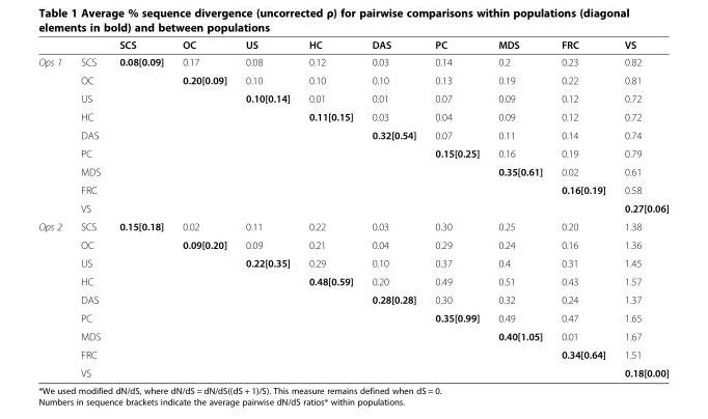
<table><thead><tr><td></td><td></td><td>SCS</td><td>OC</td><td>US</td><td>HC</td><td>DAS</td><td>PC</td><td>MDS</td><td>FRC</td><td>VS</td></tr></thead><tbody><tr><td rowspan="9">Ops 1</td><td>SCS</td><td>0.08[0.09]</td><td>0.17</td><td>0.08</td><td>0.12</td><td>0.03</td><td>0.14</td><td>0.2</td><td>0.23</td><td>0.82</td></tr><tr><td>OC</td><td></td><td>0.20[0.09]</td><td>0.10</td><td>0.10</td><td>0.10</td><td>0.13</td><td>0.19</td><td>0.22</td><td>0.81</td></tr><tr><td>US</td><td></td><td></td><td>0.10[0.14]</td><td>0.01</td><td>0.01</td><td>0.07</td><td>0.09</td><td>0.12</td><td>0.72</td></tr><tr><td>HC</td><td></td><td></td><td></td><td>0.11[0.15]</td><td>0.03</td><td>0.04</td><td>0.09</td><td>0.12</td><td>0.72</td></tr><tr><td>DAS</td><td></td><td></td><td></td><td></td><td>0.32[0.54]</td><td>0.07</td><td>0.11</td><td>0.14</td><td>0.74</td></tr><tr><td>PC</td><td></td><td></td><td></td><td></td><td></td><td>0.15[0.25]</td><td>0.16</td><td>0.19</td><td>0.79</td></tr><tr><td>MDS</td><td></td><td></td><td></td><td></td><td></td><td></td><td>0.35[0.61]</td><td>0.02</td><td>0.61</td></tr><tr><td>FRC</td><td></td><td></td><td></td><td></td><td></td><td></td><td></td><td>0.16[0.19]</td><td>0.58</td></tr><tr><td>VS</td><td></td><td></td><td></td><td></td><td></td><td></td><td></td><td></td><td>0.27[0.06]</td></tr><tr><td rowspan="9">Ops 2</td><td>SCS</td><td>0.15[0.18]</td><td>0.02</td><td>0.11</td><td>0.22</td><td>0.03</td><td>0.30</td><td>0.25</td><td>0.20</td><td>1.38</td></tr><tr><td>OC</td><td></td><td>0.09[0.20]</td><td>0.09</td><td>0.21</td><td>0.04</td><td>0.29</td><td>0.24</td><td>0.16</td><td>1.36</td></tr><tr><td>US</td><td></td><td></td><td>0.22[0.35]</td><td>0.29</td><td>0.10</td><td>0.37</td><td>0.4</td><td>0.31</td><td>1.45</td></tr><tr><td>HC</td><td></td><td></td><td></td><td>0.48[0.59]</td><td>0.20</td><td>0.49</td><td>0.51</td><td>0.43</td><td>1.57</td></tr><tr><td>DAS</td><td></td><td></td><td></td><td></td><td>0.28[0.28]</td><td>0.30</td><td>0.32</td><td>0.24</td><td>1.37</td></tr><tr><td>PC</td><td></td><td></td><td></td><td></td><td></td><td>0.35[0.99]</td><td>0.49</td><td>0.47</td><td>1.65</td></tr><tr><td>MDS</td><td></td><td></td><td></td><td></td><td></td><td></td><td>0.40[1.05]</td><td>0.01</td><td>1.67</td></tr><tr><td>FRC</td><td></td><td></td><td></td><td></td><td></td><td></td><td></td><td>0.34[0.64]</td><td>1.51</td></tr><tr><td>VS</td><td></td><td></td><td></td><td></td><td></td><td></td><td></td><td></td><td>0.18[0.00]</td></tr></tbody></table>